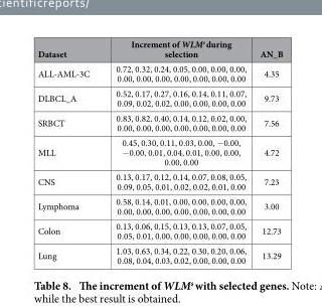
<table><thead><tr><td>Dataset</td><td>Increment of WLM<sup>s</sup> during selection</td><td>AN_B</td></tr></thead><tbody><tr><td>ALL-AML-3C</td><td>0.72, 0.32, 0.24, 0.05, 0.00, 0.00, 0.00, 0.00, 0.00, 0.00, 0.00, 0.00, 0.00, 0.00</td><td>4.35</td></tr><tr><td>DLBCL_A</td><td>0.52, 0.17, 0.27, 0.16, 0.14, 0.11, 0.07, 0.09, 0.02, 0.02, 0.00, 0.00, 0.00, 0.00</td><td>9.73</td></tr><tr><td>SRBCT</td><td>0.83, 0.82, 0.40, 0.14, 0.12, 0.02, 0.00, 0.00, 0.00, 0.00, 0.00, 0.00, 0.00, 0.00</td><td>7.56</td></tr><tr><td>MLL</td><td>0.45, 0.30, 0.11, 0.03, 0.00, − 0.00, − 0.00, 0.01, 0.04, 0.01, 0.00, 0.00, 0.00, 0.00</td><td>4.72</td></tr><tr><td>CNS</td><td>0.13, 0.17, 0.12, 0.14, 0.07, 0.08, 0.05, 0.09, 0.05, 0.01, 0.02, 0.02, 0.01, 0.00</td><td>7.23</td></tr><tr><td>Lymphoma</td><td>0.58, 0.14, 0.01, 0.00, 0.00, 0.00, 0.00, 0.00, 0.00, 0.00, 0.00, 0.00, 0.00, 0.00</td><td>3.00</td></tr><tr><td>Colon</td><td>0.13, 0.06, 0.15, 0.13, 0.13, 0.07, 0.05, 0.05, 0.01, 0.00, 0.00, 0.00, 0.00, 0.00</td><td>12.73</td></tr><tr><td>Lung</td><td>1.03, 0.63, 0.34, 0.22, 0.30, 0.20, 0.06, 0.08, 0.04, 0.03, 0.02, 0.00, 0.00, 0.00</td><td>13.29</td></tr></tbody></table>